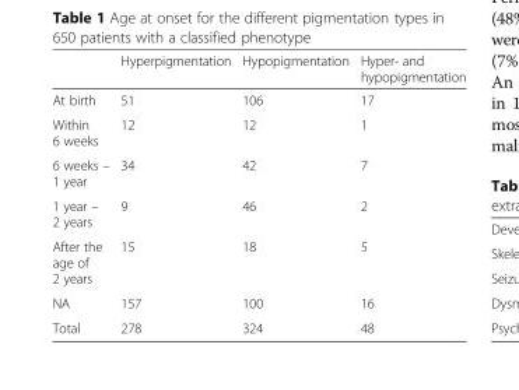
<table><thead><tr><td></td><td>Hyperpigmentation</td><td>Hypopigmentation</td><td>Hyper- and hypopigmentation</td></tr></thead><tbody><tr><td>At birth</td><td>51</td><td>106</td><td>17</td></tr><tr><td>Within 6 weeks</td><td>12</td><td>12</td><td>1</td></tr><tr><td>6 weeks – 1 year</td><td>34</td><td>42</td><td>7</td></tr><tr><td>1 year – 2 years</td><td>9</td><td>46</td><td>2</td></tr><tr><td>After the age of 2 years</td><td>15</td><td>18</td><td>5</td></tr><tr><td>NA</td><td>157</td><td>100</td><td>16</td></tr><tr><td>Total</td><td>278</td><td>324</td><td>48</td></tr></tbody></table>